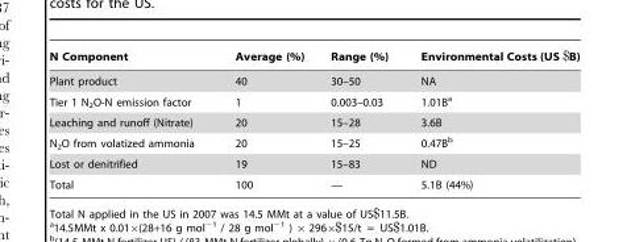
<table><thead><tr><td>N Component</td><td>Average (%)</td><td>Range (%)</td><td>Environmental Costs (US $B)</td></tr></thead><tbody><tr><td>Plant product</td><td>40</td><td>30–50</td><td>NA</td></tr><tr><td>Tier 1 N<sub>2</sub>O-N emission factor</td><td>1</td><td>0.003–0.03</td><td>1.01B<sup>a</sup></td></tr><tr><td>Leaching and runoff (Nitrate)</td><td>20</td><td>15–28</td><td>3.6B</td></tr><tr><td>N<sub>2</sub>O from volatized ammonia</td><td>20</td><td>15–25</td><td>0.47B<sup>b</sup></td></tr><tr><td>Lost or denitrified</td><td>19</td><td>15–83</td><td>ND</td></tr><tr><td>Total</td><td>100</td><td>—</td><td>5.1B (44%)</td></tr></tbody></table>